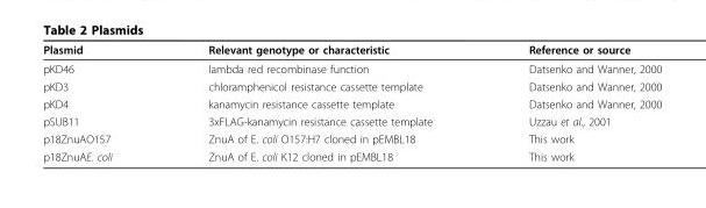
<table><thead><tr><td>Plasmid</td><td>Relevant genotype or characteristic</td><td>Reference or source</td></tr></thead><tbody><tr><td>pKD46</td><td>lambda red recombinase function</td><td>Datsenko and Wanner, 2000</td></tr><tr><td>pKD3</td><td>chloramphenicol resistance cassette template</td><td>Datsenko and Wanner, 2000</td></tr><tr><td>pKD4</td><td>kanamycin resistance cassette template</td><td>Datsenko and Wanner, 2000</td></tr><tr><td>pSUB11</td><td>3xFLAG-kanamycin resistance cassette template</td><td>Uzzau et al., 2001</td></tr><tr><td>p18ZnuAO157</td><td>ZnuA of E. coli O157:H7 cloned in pEMBL18</td><td>This work</td></tr><tr><td>p18ZnuAE. coli</td><td>ZnuA of E. coli K12 cloned in pEMBL18</td><td>This work</td></tr></tbody></table>